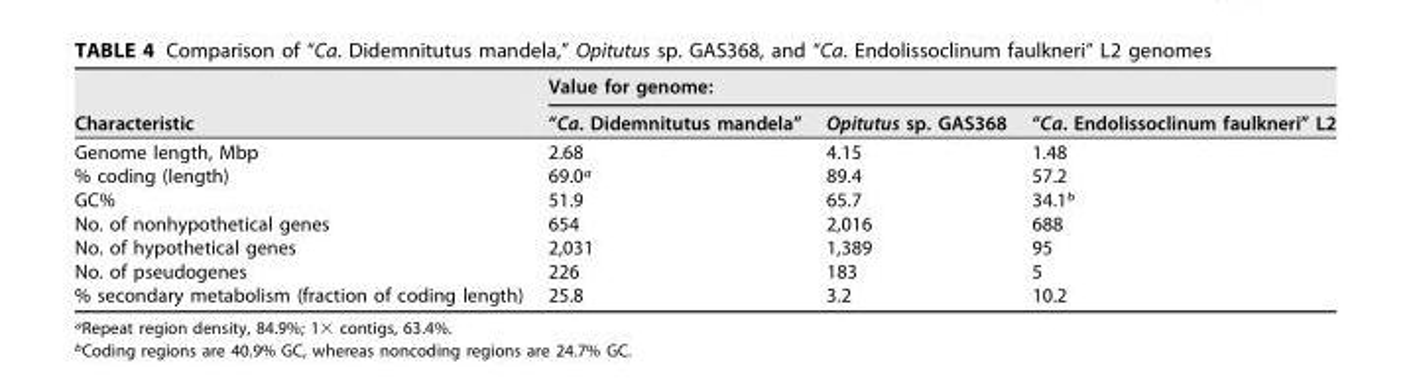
<table><thead><tr><td rowspan="2">Characteristic</td><td colspan="3">Value for genome:</td></tr><tr><td>“Ca. Didemnitutus mandela”</td><td>Opitutus sp. GAS368</td><td>“Ca. Endolissoclinum faulkneri” L2</td></tr></thead><tbody><tr><td>Genome length, Mbp</td><td>2.68</td><td>4.15</td><td>1.48</td></tr><tr><td>% coding (length)</td><td>69.0<sup>a</sup></td><td>89.4</td><td>57.2</td></tr><tr><td>GC%</td><td>51.9</td><td>65.7</td><td>34.1<sup>b</sup></td></tr><tr><td>No. of nonhypothetical genes</td><td>654</td><td>2,016</td><td>688</td></tr><tr><td>No. of hypothetical genes</td><td>2,031</td><td>1,389</td><td>95</td></tr><tr><td>No. of pseudogenes</td><td>226</td><td>183</td><td>5</td></tr><tr><td>% secondary metabolism (fraction of coding length)</td><td>25.8</td><td>3.2</td><td>10.2</td></tr></tbody></table>